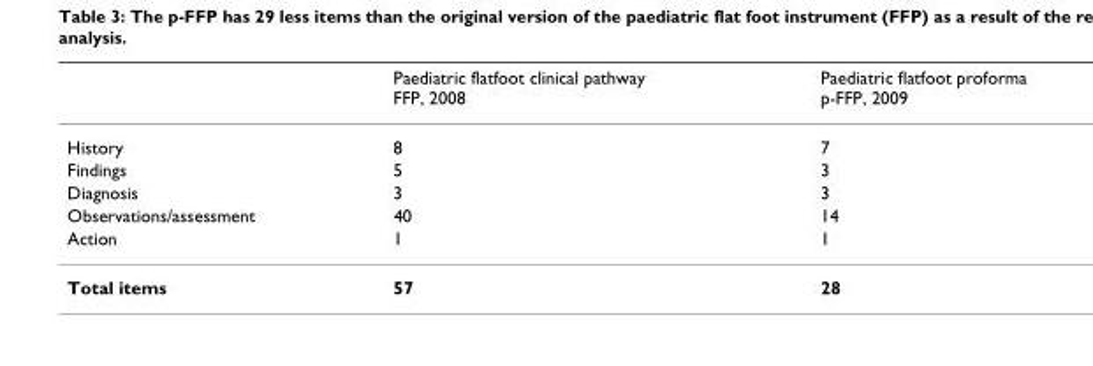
<table><thead><tr><td></td><td>Paediatric flatfoot clinical pathway FFP, 2008</td><td>Paediatric flatfoot proforma p-FFP, 2009</td></tr></thead><tbody><tr><td>History</td><td>8</td><td>7</td></tr><tr><td>Findings</td><td>5</td><td>3</td></tr><tr><td>Diagnosis</td><td>3</td><td>3</td></tr><tr><td>Observations/assessment</td><td>40</td><td>14</td></tr><tr><td>Action</td><td>1</td><td>1</td></tr><tr><td>Total items</td><td>57</td><td>28</td></tr></tbody></table>